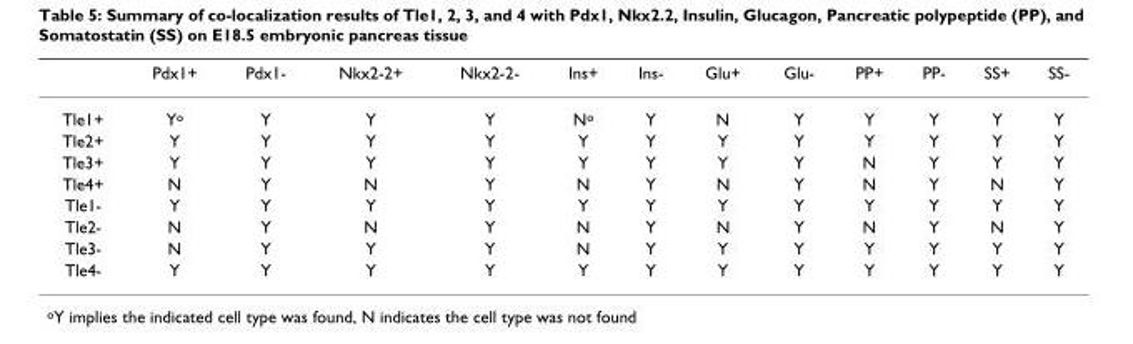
<table><thead><tr><td></td><td>Pdx1+</td><td>Pdx1-</td><td>Nkx2-2+</td><td>Nkx2-2-</td><td>Ins+</td><td>Ins-</td><td>Glu+</td><td>Glu-</td><td>PP+</td><td>PP-</td><td>SS+</td><td>SS-</td></tr></thead><tbody><tr><td>Tle1+</td><td>Y<sup>o</sup></td><td>Y</td><td>Y</td><td>Y</td><td>N<sup>o</sup></td><td>Y</td><td>N</td><td>Y</td><td>Y</td><td>Y</td><td>Y</td><td>Y</td></tr><tr><td>Tle2+</td><td>Y</td><td>Y</td><td>Y</td><td>Y</td><td>Y</td><td>Y</td><td>Y</td><td>Y</td><td>Y</td><td>Y</td><td>Y</td><td>Y</td></tr><tr><td>Tle3+</td><td>Y</td><td>Y</td><td>Y</td><td>Y</td><td>Y</td><td>Y</td><td>Y</td><td>Y</td><td>N</td><td>Y</td><td>Y</td><td>Y</td></tr><tr><td>Tle4+</td><td>N</td><td>Y</td><td>N</td><td>Y</td><td>N</td><td>Y</td><td>N</td><td>Y</td><td>N</td><td>Y</td><td>N</td><td>Y</td></tr><tr><td>Tle1-</td><td>Y</td><td>Y</td><td>Y</td><td>Y</td><td>Y</td><td>Y</td><td>Y</td><td>Y</td><td>Y</td><td>Y</td><td>Y</td><td>Y</td></tr><tr><td>Tle2-</td><td>N</td><td>Y</td><td>N</td><td>Y</td><td>N</td><td>Y</td><td>N</td><td>Y</td><td>N</td><td>Y</td><td>N</td><td>Y</td></tr><tr><td>Tle3-</td><td>N</td><td>Y</td><td>Y</td><td>Y</td><td>N</td><td>Y</td><td>Y</td><td>Y</td><td>Y</td><td>Y</td><td>Y</td><td>Y</td></tr><tr><td>Tle4-</td><td>Y</td><td>Y</td><td>Y</td><td>Y</td><td>Y</td><td>Y</td><td>Y</td><td>Y</td><td>Y</td><td>Y</td><td>Y</td><td>Y</td></tr></tbody></table>